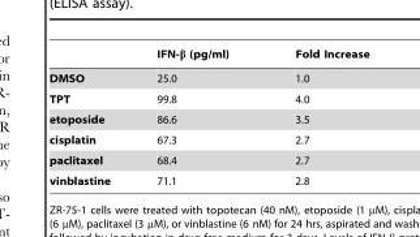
<table><thead><tr><td></td><td>IFN-β (pg/ml)</td><td>Fold Increase</td></tr></thead><tbody><tr><td>DMSO</td><td>25.0</td><td>1.0</td></tr><tr><td>TPT</td><td>99.8</td><td>4.0</td></tr><tr><td>etoposide</td><td>86.6</td><td>3.5</td></tr><tr><td>cisplatin</td><td>67.3</td><td>2.7</td></tr><tr><td>paclitaxel</td><td>68.4</td><td>2.7</td></tr><tr><td>vinblastine</td><td>71.1</td><td>2.8</td></tr></tbody></table>